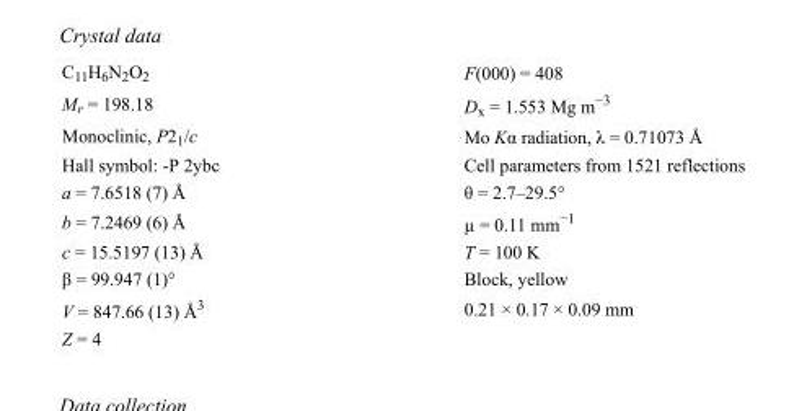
<table><tbody><tr><td>C<sub>11</sub>H<sub>6</sub>N<sub>2</sub>O<sub>2</sub></td><td>F(000) = 408</td></tr><tr><td>M<sub>r</sub> = 198.18</td><td>D<sub>x</sub> = 1.553 Mg m<sup>−3</sup></td></tr><tr><td>Monoclinic, P2<sub>1</sub>/c</td><td>Mo Kα radiation, λ = 0.71073 Å</td></tr><tr><td>Hall symbol: -P 2ybc</td><td>Cell parameters from 1521 reflections</td></tr><tr><td>a = 7.6518 (7) Å</td><td>θ = 2.7–29.5°</td></tr><tr><td>b = 7.2469 (6) Å</td><td>µ = 0.11 mm<sup>−1</sup></td></tr><tr><td>c = 15.5197 (13) Å</td><td>T = 100 K</td></tr><tr><td>β = 99.947 (1)°</td><td>Block, yellow</td></tr><tr><td>V = 847.66 (13) Å<sup>3</sup></td><td>0.21 × 0.17 × 0.09 mm</td></tr><tr><td>Z = 4</td><td></td></tr></tbody></table>